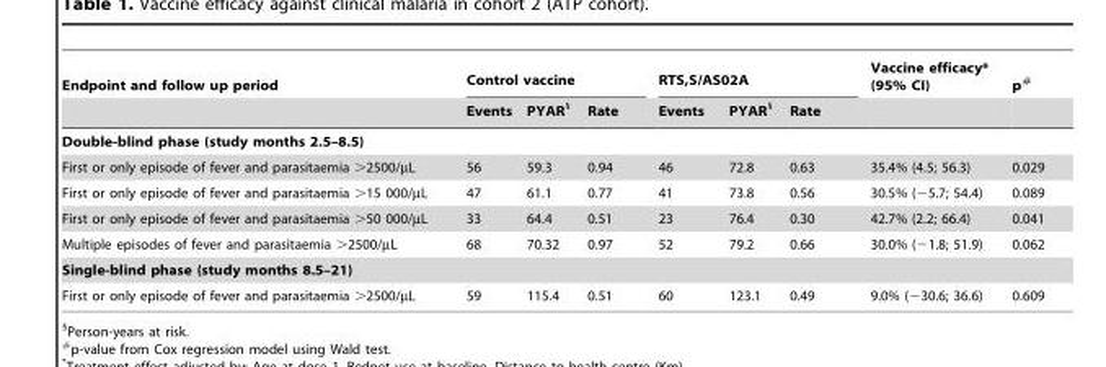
<table><thead><tr><td rowspan="2">Endpoint and follow up period</td><td colspan="3">Control vaccine</td><td colspan="3">RTS,S/AS02A</td><td rowspan="2">Vaccine efficacy* (95% CI)</td><td rowspan="2">p#</td></tr><tr><td>Events</td><td>PYAR§</td><td>Rate</td><td>Events</td><td>PYAR§</td><td>Rate</td></tr></thead><tbody><tr><td colspan="9">Double-blind phase (study months 2.5–8.5)</td></tr><tr><td>First or only episode of fever and parasitaemia &gt;2500/µL</td><td>56</td><td>59.3</td><td>0.94</td><td>46</td><td>72.8</td><td>0.63</td><td>35.4% (4.5; 56.3)</td><td>0.029</td></tr><tr><td>First or only episode of fever and parasitaemia &gt;15 000/µL</td><td>47</td><td>61.1</td><td>0.77</td><td>41</td><td>73.8</td><td>0.56</td><td>30.5% (−5.7; 54.4)</td><td>0.089</td></tr><tr><td>First or only episode of fever and parasitaemia &gt;50 000/µL</td><td>33</td><td>64.4</td><td>0.51</td><td>23</td><td>76.4</td><td>0.30</td><td>42.7% (2.2; 66.4)</td><td>0.041</td></tr><tr><td>Multiple episodes of fever and parasitaemia &gt;2500/µL</td><td>68</td><td>70.32</td><td>0.97</td><td>52</td><td>79.2</td><td>0.66</td><td>30.0% (−1.8; 51.9)</td><td>0.062</td></tr><tr><td colspan="9">Single-blind phase (study months 8.5–21)</td></tr><tr><td>First or only episode of fever and parasitaemia &gt;2500/µL</td><td>59</td><td>115.4</td><td>0.51</td><td>60</td><td>123.1</td><td>0.49</td><td>9.0% (−30.6; 36.6)</td><td>0.609</td></tr></tbody></table>